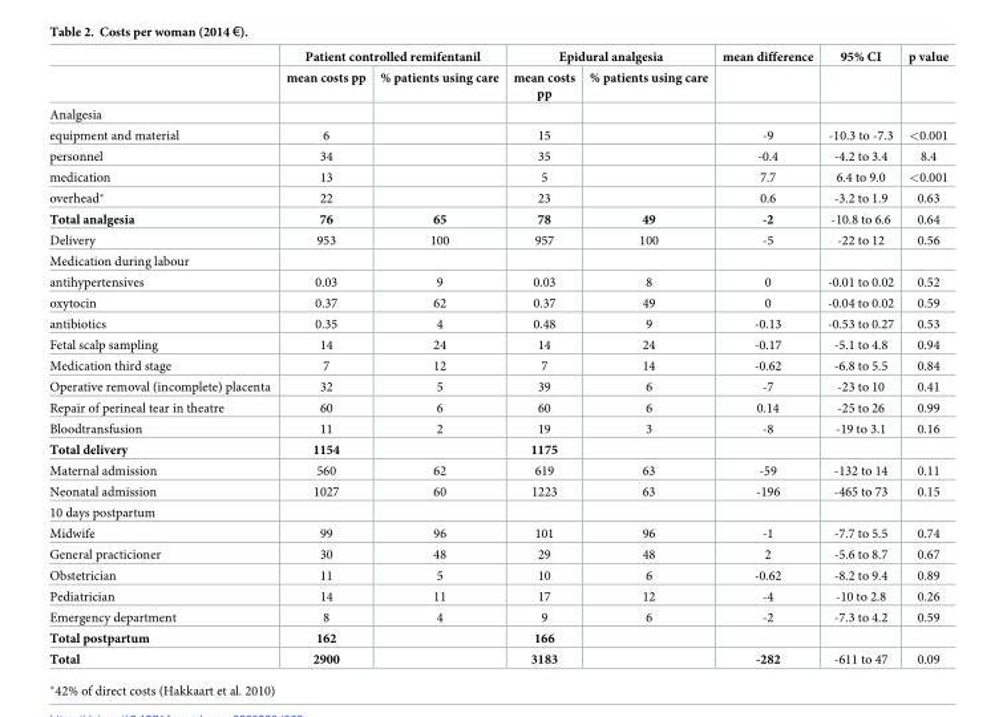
<table><thead><tr><td rowspan="2"></td><td colspan="2">Patient controlled remifentanil</td><td colspan="2">Epidural analgesia</td><td rowspan="2">mean difference</td><td rowspan="2">95% CI</td><td rowspan="2">p value</td></tr><tr><td>mean costs pp</td><td>% patients using care</td><td>mean costs pp</td><td>% patients using care</td></tr></thead><tbody><tr><td colspan="8">Analgesia</td></tr><tr><td>equipment and material</td><td>6</td><td></td><td>15</td><td></td><td>-9</td><td>-10.3 to -7.3</td><td>&lt;0.001</td></tr><tr><td>personnel</td><td>34</td><td></td><td>35</td><td></td><td>-0.4</td><td>-4.2 to 3.4</td><td>8.4</td></tr><tr><td>medication</td><td>13</td><td></td><td>5</td><td></td><td>7.7</td><td>6.4 to 9.0</td><td>&lt;0.001</td></tr><tr><td>overhead*</td><td>22</td><td></td><td>23</td><td></td><td>0.6</td><td>-3.2 to 1.9</td><td>0.63</td></tr><tr><td>Total analgesia</td><td>76</td><td>65</td><td>78</td><td>49</td><td>-2</td><td>-10.8 to 6.6</td><td>0.64</td></tr><tr><td>Delivery</td><td>953</td><td>100</td><td>957</td><td>100</td><td>-5</td><td>-22 to 12</td><td>0.56</td></tr><tr><td colspan="8">Medication during labour</td></tr><tr><td>antihypertensives</td><td>0.03</td><td>9</td><td>0.03</td><td>8</td><td>0</td><td>-0.01 to 0.02</td><td>0.52</td></tr><tr><td>oxytocin</td><td>0.37</td><td>62</td><td>0.37</td><td>49</td><td>0</td><td>-0.04 to 0.02</td><td>0.59</td></tr><tr><td>antibiotics</td><td>0.35</td><td>4</td><td>0.48</td><td>9</td><td>-0.13</td><td>-0.53 to 0.27</td><td>0.53</td></tr><tr><td>Fetal scalp sampling</td><td>14</td><td>24</td><td>14</td><td>24</td><td>-0.17</td><td>-5.1 to 4.8</td><td>0.94</td></tr><tr><td>Medication third stage</td><td>7</td><td>12</td><td>7</td><td>14</td><td>-0.62</td><td>-6.8 to 5.5</td><td>0.84</td></tr><tr><td>Operative removal (incomplete) placenta</td><td>32</td><td>5</td><td>39</td><td>6</td><td>-7</td><td>-23 to 10</td><td>0.41</td></tr><tr><td>Repair of perineal tear in theatre</td><td>60</td><td>6</td><td>60</td><td>6</td><td>0.14</td><td>-25 to 26</td><td>0.99</td></tr><tr><td>Bloodtransfusion</td><td>11</td><td>2</td><td>19</td><td>3</td><td>-8</td><td>-19 to 3.1</td><td>0.16</td></tr><tr><td>Total delivery</td><td>1154</td><td></td><td>1175</td><td></td><td></td><td></td><td></td></tr><tr><td>Maternal admission</td><td>560</td><td>62</td><td>619</td><td>63</td><td>-59</td><td>-132 to 14</td><td>0.11</td></tr><tr><td>Neonatal admission</td><td>1027</td><td>60</td><td>1223</td><td>63</td><td>-196</td><td>-465 to 73</td><td>0.15</td></tr><tr><td colspan="8">10 days postpartum</td></tr><tr><td>Midwife</td><td>99</td><td>96</td><td>101</td><td>96</td><td>-1</td><td>-7.7 to 5.5</td><td>0.74</td></tr><tr><td>General practicioner</td><td>30</td><td>48</td><td>29</td><td>48</td><td>2</td><td>-5.6 to 8.7</td><td>0.67</td></tr><tr><td>Obstetrician</td><td>11</td><td>5</td><td>10</td><td>6</td><td>-0.62</td><td>-8.2 to 9.4</td><td>0.89</td></tr><tr><td>Pediatrician</td><td>14</td><td>11</td><td>17</td><td>12</td><td>-4</td><td>-10 to 2.8</td><td>0.26</td></tr><tr><td>Emergency department</td><td>8</td><td>4</td><td>9</td><td>6</td><td>-2</td><td>-7.3 to 4.2</td><td>0.59</td></tr><tr><td>Total postpartum</td><td>162</td><td></td><td>166</td><td></td><td></td><td></td><td></td></tr><tr><td>Total</td><td>2900</td><td></td><td>3183</td><td></td><td>-282</td><td>-611 to 47</td><td>0.09</td></tr></tbody></table>